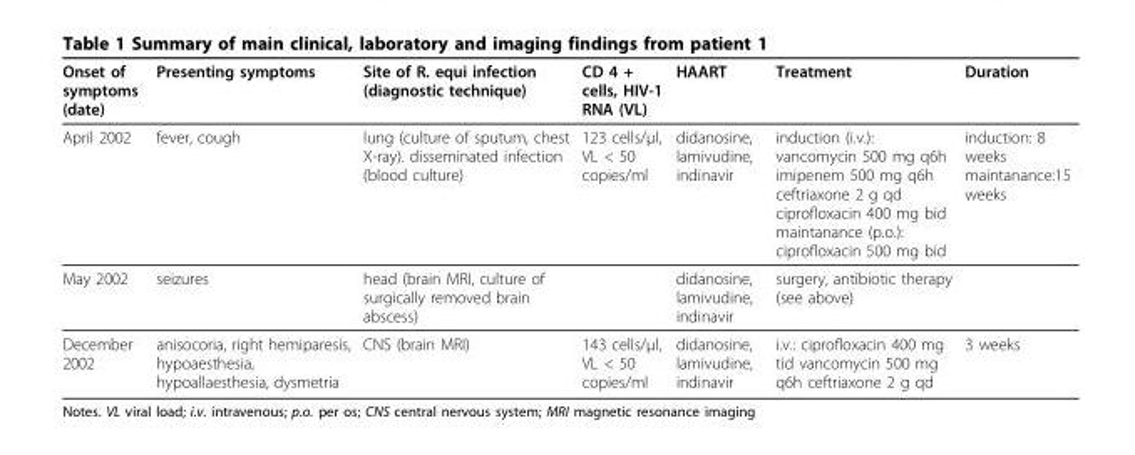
<table><thead><tr><td>Onset of symptoms (date)</td><td>Presenting symptoms</td><td>Site of R. equi infection (diagnostic technique)</td><td>CD 4 + cells, HIV-1 RNA (VL)</td><td>HAART</td><td>Treatment</td><td>Duration</td></tr></thead><tbody><tr><td>April 2002</td><td>fever, cough</td><td>lung (culture of sputum, chest X-ray). disseminated infection (blood culture)</td><td>123 cells/μl, VL &lt; 50 copies/ml</td><td>didanosine, lamivudine, indinavir</td><td>induction (i.v.): vancomycin 500 mg q6h imipenem 500 mg q6h ceftriaxone 2 g qd ciprofloxacin 400 mg bid maintanance (p.o.): ciprofloxacin 500 mg bid</td><td>induction: 8 weeks maintanance:15 weeks</td></tr><tr><td>May 2002</td><td>seizures</td><td>head (brain MRI, culture of surgically removed brain abscess)</td><td></td><td>didanosine, lamivudine, indinavir</td><td>surgery, antibiotic therapy (see above)</td><td></td></tr><tr><td>December 2002</td><td>anisocoria, right hemiparesis, hypoaesthesia, hypoallaesthesia, dysmetria</td><td>CNS (brain MRI)</td><td>143 cells/μl, VL &lt; 50 copies/ml</td><td>didanosine, lamivudine, indinavir</td><td>i.v.: ciprofloxacin 400 mg tid vancomycin 500 mg q6h ceftriaxone 2 g qd</td><td>3 weeks</td></tr></tbody></table>